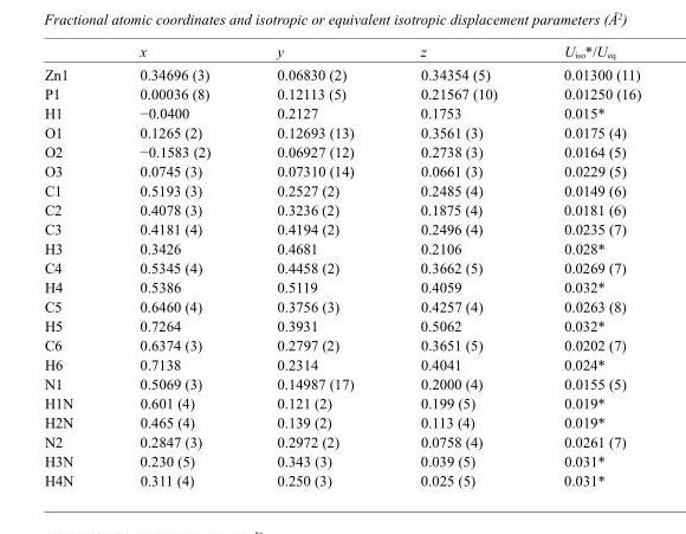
<table><thead><tr><td></td><td>x</td><td>y</td><td>z</td><td>U<sub>iso</sub>*/U<sub>eq</sub></td></tr></thead><tbody><tr><td>Zn1</td><td>0.34696 (3)</td><td>0.06830 (2)</td><td>0.34354 (5)</td><td>0.01300 (11)</td></tr><tr><td>P1</td><td>0.00036 (8)</td><td>0.12113 (5)</td><td>0.21567 (10)</td><td>0.01250 (16)</td></tr><tr><td>H1</td><td>−0.0400</td><td>0.2127</td><td>0.1753</td><td>0.015*</td></tr><tr><td>O1</td><td>0.1265 (2)</td><td>0.12693 (13)</td><td>0.3561 (3)</td><td>0.0175 (4)</td></tr><tr><td>O2</td><td>−0.1583 (2)</td><td>0.06927 (12)</td><td>0.2738 (3)</td><td>0.0164 (5)</td></tr><tr><td>O3</td><td>0.0745 (3)</td><td>0.07310 (14)</td><td>0.0661 (3)</td><td>0.0229 (5)</td></tr><tr><td>C1</td><td>0.5193 (3)</td><td>0.2527 (2)</td><td>0.2485 (4)</td><td>0.0149 (6)</td></tr><tr><td>C2</td><td>0.4078 (3)</td><td>0.3236 (2)</td><td>0.1875 (4)</td><td>0.0181 (6)</td></tr><tr><td>C3</td><td>0.4181 (4)</td><td>0.4194 (2)</td><td>0.2496 (4)</td><td>0.0235 (7)</td></tr><tr><td>H3</td><td>0.3426</td><td>0.4681</td><td>0.2106</td><td>0.028*</td></tr><tr><td>C4</td><td>0.5345 (4)</td><td>0.4458 (2)</td><td>0.3662 (5)</td><td>0.0269 (7)</td></tr><tr><td>H4</td><td>0.5386</td><td>0.5119</td><td>0.4059</td><td>0.032*</td></tr><tr><td>C5</td><td>0.6460 (4)</td><td>0.3756 (3)</td><td>0.4257 (4)</td><td>0.0263 (8)</td></tr><tr><td>H5</td><td>0.7264</td><td>0.3931</td><td>0.5062</td><td>0.032*</td></tr><tr><td>C6</td><td>0.6374 (3)</td><td>0.2797 (2)</td><td>0.3651 (5)</td><td>0.0202 (7)</td></tr><tr><td>H6</td><td>0.7138</td><td>0.2314</td><td>0.4041</td><td>0.024*</td></tr><tr><td>N1</td><td>0.5069 (3)</td><td>0.14987 (17)</td><td>0.2000 (4)</td><td>0.0155 (5)</td></tr><tr><td>H1N</td><td>0.601 (4)</td><td>0.121 (2)</td><td>0.199 (5)</td><td>0.019*</td></tr><tr><td>H2N</td><td>0.465 (4)</td><td>0.139 (2)</td><td>0.113 (4)</td><td>0.019*</td></tr><tr><td>N2</td><td>0.2847 (3)</td><td>0.2972 (2)</td><td>0.0758 (4)</td><td>0.0261 (7)</td></tr><tr><td>H3N</td><td>0.230 (5)</td><td>0.343 (3)</td><td>0.039 (5)</td><td>0.031*</td></tr><tr><td>H4N</td><td>0.311 (4)</td><td>0.250 (3)</td><td>0.025 (5)</td><td>0.031*</td></tr></tbody></table>